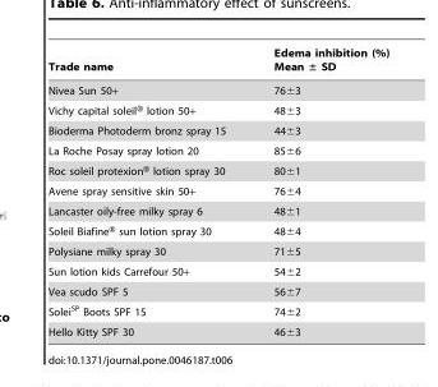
<table><thead><tr><td>Trade name</td><td>Edema inhibition (%) Mean ± SD</td></tr></thead><tbody><tr><td>Nivea Sun 50+</td><td>76±3</td></tr><tr><td>Vichy capital soleil® lotion 50+</td><td>48±3</td></tr><tr><td>Bioderma Photoderm bronz spray 15</td><td>44±3</td></tr><tr><td>La Roche Posay spray lotion 20</td><td>85±6</td></tr><tr><td>Roc soleil protexion® lotion spray 30</td><td>80±1</td></tr><tr><td>Avene spray sensitive skin 50+</td><td>76±4</td></tr><tr><td>Lancaster oily-free milky spray 6</td><td>48±1</td></tr><tr><td>Soleil Biafine® sun lotion spray 30</td><td>48±4</td></tr><tr><td>Polysiane milky spray 30</td><td>71±5</td></tr><tr><td>Sun lotion kids Carrefour 50+</td><td>54±2</td></tr><tr><td>Vea scudo SPF 5</td><td>56±7</td></tr><tr><td>Solei<sup>SP</sup> Boots SPF 15</td><td>74±2</td></tr><tr><td>Hello Kitty SPF 30</td><td>46±3</td></tr></tbody></table>